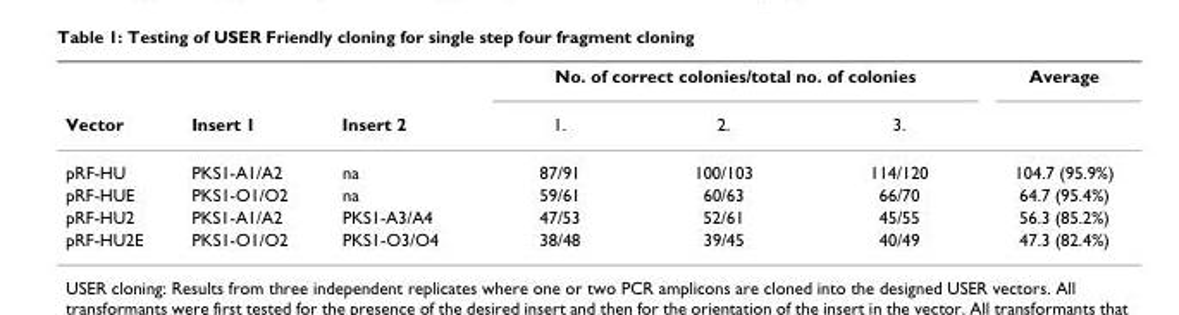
<table><thead><tr><td rowspan="2">Vector</td><td rowspan="2">Insert 1</td><td rowspan="2">Insert 2</td><td colspan="3">No. of correct colonies/total no. of colonies</td><td rowspan="2">Average</td></tr><tr><td>1.</td><td>2.</td><td>3.</td></tr></thead><tbody><tr><td>pRF-HU</td><td>PKS1-A1/A2</td><td>na</td><td>87/91</td><td>100/103</td><td>114/120</td><td>104.7 (95.9%)</td></tr><tr><td>pRF-HUE</td><td>PKS1-O1/O2</td><td>na</td><td>59/61</td><td>60/63</td><td>66/70</td><td>64.7 (95.4%)</td></tr><tr><td>pRF-HU2</td><td>PKS1-A1/A2</td><td>PKS1-A3/A4</td><td>47/53</td><td>52/61</td><td>45/55</td><td>56.3 (85.2%)</td></tr><tr><td>pRF-HU2E</td><td>PKS1-O1/O2</td><td>PKS1-O3/O4</td><td>38/48</td><td>39/45</td><td>40/49</td><td>47.3 (82.4%)</td></tr></tbody></table>